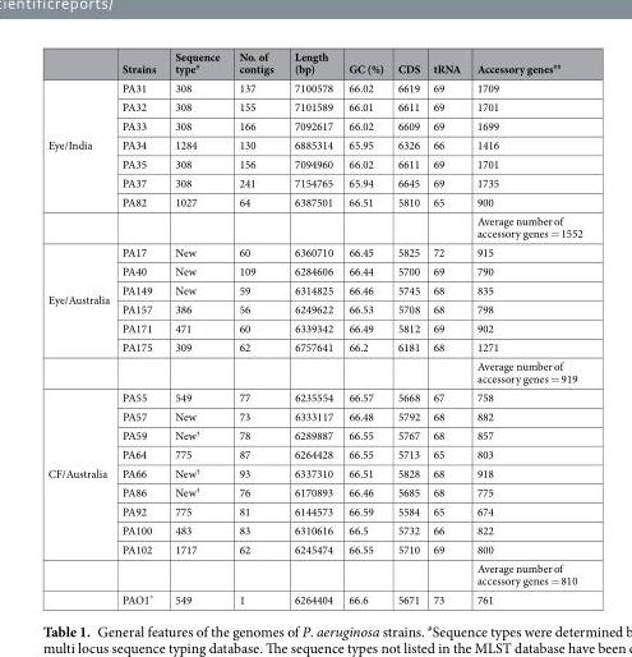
<table><thead><tr><td></td><td>Strains</td><td>Sequence type<sup>#</sup></td><td>No. of contigs</td><td>Length (bp)</td><td>GC (%)</td><td>CDS</td><td>tRNA</td><td>Accessory genes<sup>##</sup></td></tr></thead><tbody><tr><td rowspan="8">Eye/India</td><td>PA31</td><td>308</td><td>137</td><td>7100578</td><td>66.02</td><td>6619</td><td>69</td><td>1709</td></tr><tr><td>PA32</td><td>308</td><td>155</td><td>7101589</td><td>66.01</td><td>6611</td><td>69</td><td>1701</td></tr><tr><td>PA33</td><td>308</td><td>166</td><td>7092617</td><td>66.02</td><td>6609</td><td>69</td><td>1699</td></tr><tr><td>PA34</td><td>1284</td><td>130</td><td>6885314</td><td>65.95</td><td>6326</td><td>66</td><td>1416</td></tr><tr><td>PA35</td><td>308</td><td>156</td><td>7094960</td><td>66.02</td><td>6611</td><td>69</td><td>1701</td></tr><tr><td>PA37</td><td>308</td><td>241</td><td>7154765</td><td>65.94</td><td>6645</td><td>69</td><td>1735</td></tr><tr><td>PA82</td><td>1027</td><td>64</td><td>6387501</td><td>66.51</td><td>5810</td><td>65</td><td>900</td></tr><tr><td></td><td></td><td></td><td></td><td></td><td></td><td></td><td>Average number of accessory genes = 1552</td></tr><tr><td rowspan="7">Eye/Australia</td><td>PA17</td><td>New</td><td>60</td><td>6360710</td><td>66.45</td><td>5825</td><td>72</td><td>915</td></tr><tr><td>PA40</td><td>New</td><td>109</td><td>6284606</td><td>66.44</td><td>5700</td><td>69</td><td>790</td></tr><tr><td>PA149</td><td>New</td><td>59</td><td>6314825</td><td>66.46</td><td>5745</td><td>68</td><td>835</td></tr><tr><td>PA157</td><td>386</td><td>56</td><td>6249622</td><td>66.53</td><td>5708</td><td>68</td><td>798</td></tr><tr><td>PA171</td><td>471</td><td>60</td><td>6339342</td><td>66.49</td><td>5812</td><td>69</td><td>902</td></tr><tr><td>PA175</td><td>309</td><td>62</td><td>6757641</td><td>66.2</td><td>6181</td><td>68</td><td>1271</td></tr><tr><td></td><td></td><td></td><td></td><td></td><td></td><td></td><td>Average number of accessory genes = 919</td></tr><tr><td rowspan="11">CF/Australia</td><td>PA55</td><td>549</td><td>77</td><td>6235554</td><td>66.57</td><td>5668</td><td>67</td><td>758</td></tr><tr><td>PA57</td><td>New</td><td>73</td><td>6333117</td><td>66.48</td><td>5792</td><td>68</td><td>882</td></tr><tr><td>PA59</td><td>New<sup>†</sup></td><td>78</td><td>6289887</td><td>66.55</td><td>5767</td><td>68</td><td>857</td></tr><tr><td>PA64</td><td>775</td><td>87</td><td>6264428</td><td>66.55</td><td>5713</td><td>65</td><td>803</td></tr><tr><td>PA66</td><td>New<sup>†</sup></td><td>93</td><td>6337310</td><td>66.51</td><td>5828</td><td>68</td><td>918</td></tr><tr><td>PA86</td><td>New<sup>†</sup></td><td>76</td><td>6170893</td><td>66.46</td><td>5685</td><td>68</td><td>775</td></tr><tr><td>PA92</td><td>775</td><td>81</td><td>6144573</td><td>66.59</td><td>5584</td><td>65</td><td>674</td></tr><tr><td>PA100</td><td>483</td><td>83</td><td>6310616</td><td>66.5</td><td>5732</td><td>66</td><td>822</td></tr><tr><td>PA102</td><td>1717</td><td>62</td><td>6245474</td><td>66.55</td><td>5710</td><td>69</td><td>800</td></tr><tr><td></td><td></td><td></td><td></td><td></td><td></td><td></td><td>Average number of accessory genes = 810</td></tr><tr><td>PAO1*</td><td>549</td><td>1</td><td>6264404</td><td>66.6</td><td>5671</td><td>73</td><td>761</td></tr></tbody></table>